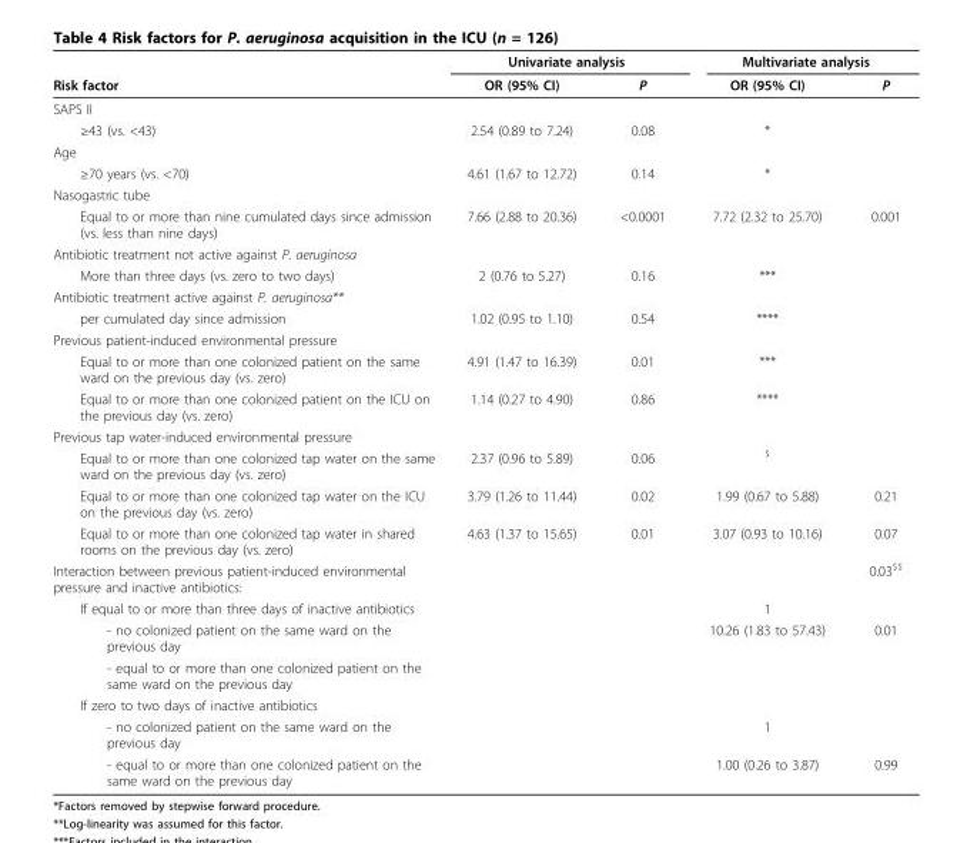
<table><thead><tr><td rowspan="2">Risk factor</td><td colspan="2">Univariate analysis</td><td colspan="2">Multivariate analysis</td></tr><tr><td>OR (95% CI)</td><td>P</td><td>OR (95% CI)</td><td>P</td></tr></thead><tbody><tr><td colspan="5">SAPS II</td></tr><tr><td>≥43 (vs. &lt;43)</td><td>2.54 (0.89 to 7.24)</td><td>0.08</td><td>*</td><td></td></tr><tr><td colspan="5">Age</td></tr><tr><td>≥70 years (vs. &lt;70)</td><td>4.61 (1.67 to 12.72)</td><td>0.14</td><td>*</td><td></td></tr><tr><td colspan="5">Nasogastric tube</td></tr><tr><td>Equal to or more than nine cumulated days since admission (vs. less than nine days)</td><td>7.66 (2.88 to 20.36)</td><td>&lt;0.0001</td><td>7.72 (2.32 to 25.70)</td><td>0.001</td></tr><tr><td colspan="5">Antibiotic treatment not active against P. aeruginosa</td></tr><tr><td>More than three days (vs. zero to two days)</td><td>2 (0.76 to 5.27)</td><td>0.16</td><td>***</td><td></td></tr><tr><td colspan="5">Antibiotic treatment active against P. aeruginosa**</td></tr><tr><td>per cumulated day since admission</td><td>1.02 (0.95 to 1.10)</td><td>0.54</td><td>****</td><td></td></tr><tr><td colspan="5">Previous patient-induced environmental pressure</td></tr><tr><td>Equal to or more than one colonized patient on the same ward on the previous day (vs. zero)</td><td>4.91 (1.47 to 16.39)</td><td>0.01</td><td>***</td><td></td></tr><tr><td>Equal to or more than one colonized patient on the ICU on the previous day (vs. zero)</td><td>1.14 (0.27 to 4.90)</td><td>0.86</td><td>****</td><td></td></tr><tr><td colspan="5">Previous tap water-induced environmental pressure</td></tr><tr><td>Equal to or more than one colonized tap water on the same ward on the previous day (vs. zero)</td><td>2.37 (0.96 to 5.89)</td><td>0.06</td><td><sup>$</sup></td><td></td></tr><tr><td>Equal to or more than one colonized tap water on the ICU on the previous day (vs. zero)</td><td>3.79 (1.26 to 11.44)</td><td>0.02</td><td>1.99 (0.67 to 5.88)</td><td>0.21</td></tr><tr><td>Equal to or more than one colonized tap water in shared rooms on the previous day (vs. zero)</td><td>4.63 (1.37 to 15.65)</td><td>0.01</td><td>3.07 (0.93 to 10.16)</td><td>0.07</td></tr><tr><td>Interaction between previous patient-induced environmental pressure and inactive antibiotics:</td><td></td><td></td><td></td><td>0.03<sup>$$</sup></td></tr><tr><td>If equal to or more than three days of inactive antibiotics</td><td></td><td></td><td>1</td><td></td></tr><tr><td>- no colonized patient on the same ward on the previous day</td><td></td><td></td><td>10.26 (1.83 to 57.43)</td><td>0.01</td></tr><tr><td colspan="5">- equal to or more than one colonized patient on the same ward on the previous day</td></tr><tr><td colspan="5">If zero to two days of inactive antibiotics</td></tr><tr><td>- no colonized patient on the same ward on the previous day</td><td></td><td></td><td>1</td><td></td></tr><tr><td>- equal to or more than one colonized patient on the same ward on the previous day</td><td></td><td></td><td>1.00 (0.26 to 3.87)</td><td>0.99</td></tr></tbody></table>